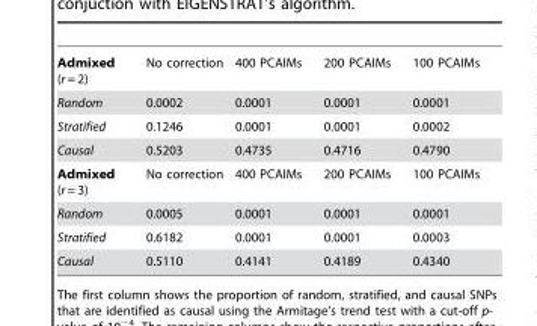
<table><tbody><tr><td>Admixed (r = 2)</td><td>No correction</td><td>400 PCAIMs</td><td>200 PCAIMs</td><td>100 PCAIMs</td></tr><tr><td>Random</td><td>0.0002</td><td>0.0001</td><td>0.0001</td><td>0.0001</td></tr><tr><td>Stratified</td><td>0.1246</td><td>0.0001</td><td>0.0001</td><td>0.0002</td></tr><tr><td>Causal</td><td>0.5203</td><td>0.4735</td><td>0.4716</td><td>0.4790</td></tr><tr><td>Admixed (r = 3)</td><td>No correction</td><td>400 PCAIMs</td><td>200 PCAIMs</td><td>100 PCAIMs</td></tr><tr><td>Random</td><td>0.0005</td><td>0.0001</td><td>0.0001</td><td>0.0001</td></tr><tr><td>Stratified</td><td>0.6182</td><td>0.0001</td><td>0.0001</td><td>0.0003</td></tr><tr><td>Causal</td><td>0.5110</td><td>0.4141</td><td>0.4189</td><td>0.4340</td></tr></tbody></table>